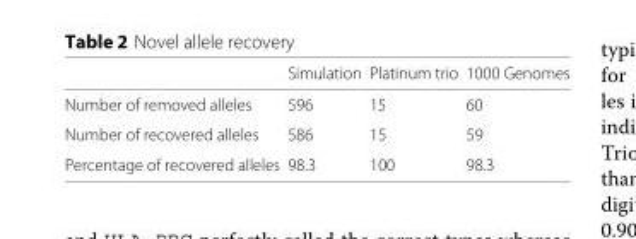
<table><thead><tr><td></td><td>Simulation</td><td>Platinum trio</td><td>1000 Genomes</td></tr></thead><tbody><tr><td>Number of removed alleles</td><td>596</td><td>15</td><td>60</td></tr><tr><td>Number of recovered alleles</td><td>586</td><td>15</td><td>59</td></tr><tr><td>Percentage of recovered alleles</td><td>98.3</td><td>100</td><td>98.3</td></tr></tbody></table>